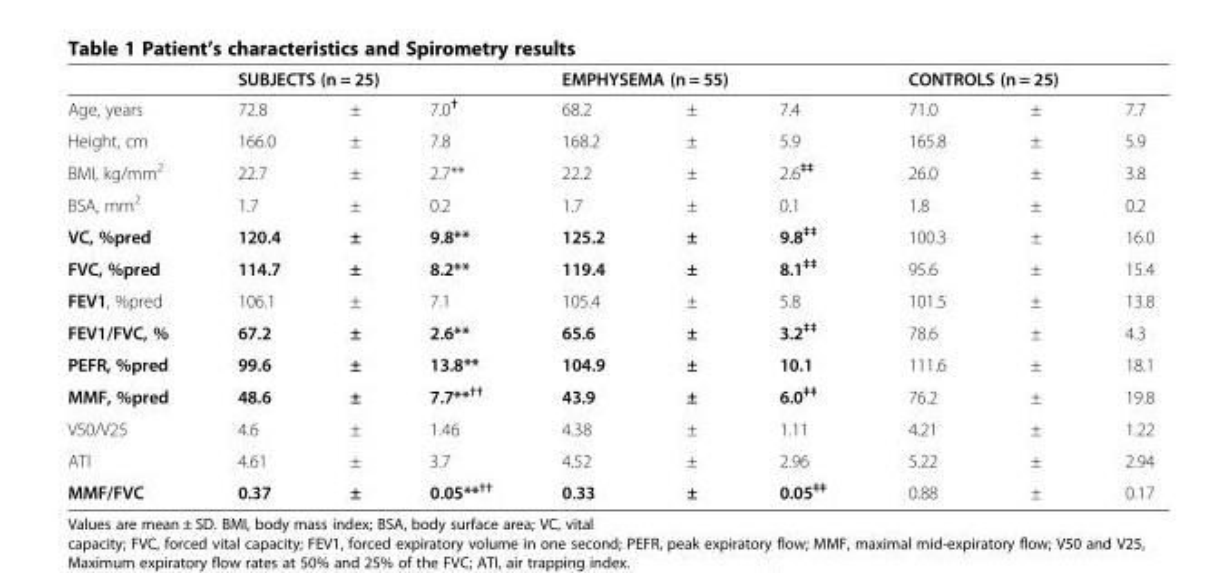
<table><thead><tr><td rowspan="2">Age, years</td><td colspan="3">SUBJECTS (n = 25)</td><td colspan="3">EMPHYSEMA (n = 55)</td><td colspan="3">CONTROLS (n = 25)</td></tr><tr><td>72.8</td><td>±</td><td>7.0<sup>†</sup></td><td>68.2</td><td>±</td><td>7.4</td><td>71.0</td><td>±</td><td>7.7</td></tr></thead><tbody><tr><td>Height, cm</td><td>166.0</td><td>±</td><td>7.8</td><td>168.2</td><td>±</td><td>5.9</td><td>165.8</td><td>±</td><td>5.9</td></tr><tr><td>BMI, kg/mm<sup>2</sup></td><td>22.7</td><td>±</td><td>2.7**</td><td>22.2</td><td>±</td><td>2.6<sup>‡‡</sup></td><td>26.0</td><td>±</td><td>3.8</td></tr><tr><td>BSA, mm<sup>2</sup></td><td>1.7</td><td>±</td><td>0.2</td><td>1.7</td><td>±</td><td>0.1</td><td>1.8</td><td>±</td><td>0.2</td></tr><tr><td>VC, %pred</td><td>120.4</td><td>±</td><td>9.8**</td><td>125.2</td><td>±</td><td>9.8<sup>‡‡</sup></td><td>100.3</td><td>±</td><td>16.0</td></tr><tr><td>FVC, %pred</td><td>114.7</td><td>±</td><td>8.2**</td><td>119.4</td><td>±</td><td>8.1<sup>‡‡</sup></td><td>95.6</td><td>±</td><td>15.4</td></tr><tr><td>FEV1, %pred</td><td>106.1</td><td>±</td><td>7.1</td><td>105.4</td><td>±</td><td>5.8</td><td>101.5</td><td>±</td><td>13.8</td></tr><tr><td>FEV1/FVC, %</td><td>67.2</td><td>±</td><td>2.6**</td><td>65.6</td><td>±</td><td>3.2<sup>‡‡</sup></td><td>78.6</td><td>±</td><td>4.3</td></tr><tr><td>PEFR, %pred</td><td>99.6</td><td>±</td><td>13.8**</td><td>104.9</td><td>±</td><td>10.1</td><td>111.6</td><td>±</td><td>18.1</td></tr><tr><td>MMF, %pred</td><td>48.6</td><td>±</td><td>7.7**<sup>††</sup></td><td>43.9</td><td>±</td><td>6.0<sup>‡‡</sup></td><td>76.2</td><td>±</td><td>19.8</td></tr><tr><td>V50/V25</td><td>4.6</td><td>±</td><td>1.46</td><td>4.38</td><td>±</td><td>1.11</td><td>4.21</td><td>±</td><td>1.22</td></tr><tr><td>ATI</td><td>4.61</td><td>±</td><td>3.7</td><td>4.52</td><td>±</td><td>2.96</td><td>5.22</td><td>±</td><td>2.94</td></tr><tr><td>MMF/FVC</td><td>0.37</td><td>±</td><td>0.05**<sup>††</sup></td><td>0.33</td><td>±</td><td>0.05<sup>‡‡</sup></td><td>0.88</td><td>±</td><td>0.17</td></tr></tbody></table>